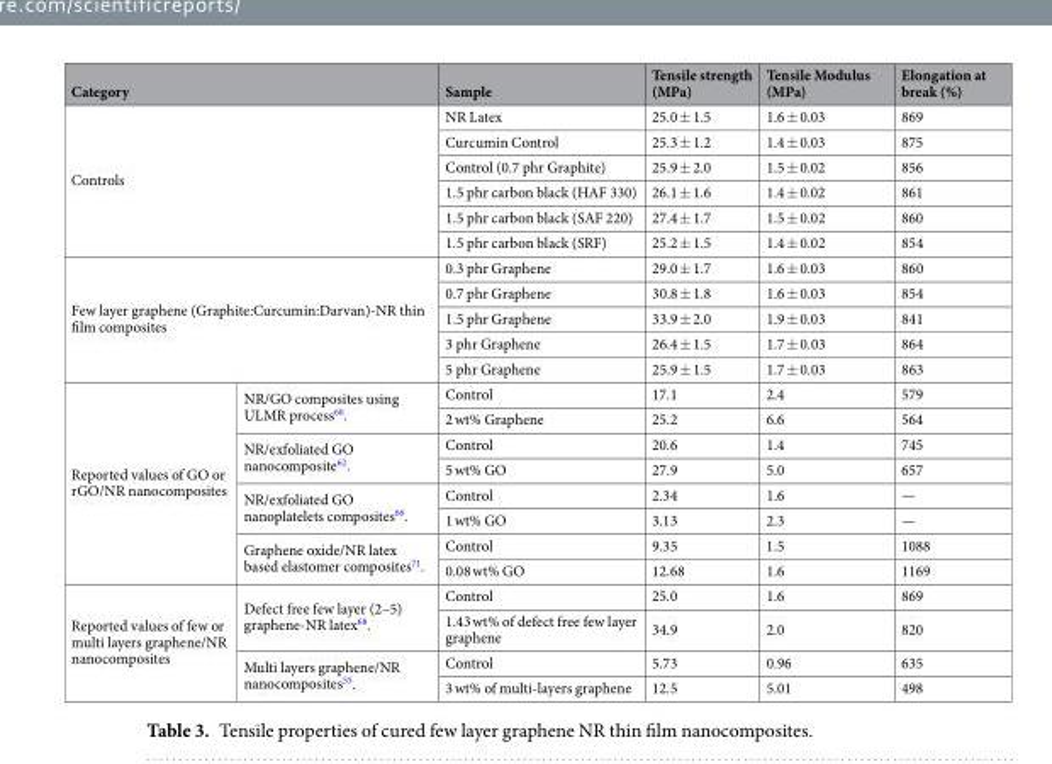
<table><thead><tr><td colspan="2">Category</td><td>Sample</td><td>Tensile strength (MPa)</td><td>Tensile Modulus (MPa)</td><td>Elongation at break (%)</td></tr></thead><tbody><tr><td rowspan="6" colspan="2">Controls</td><td>NR Latex</td><td>25.0 ± 1.5</td><td>1.6 ± 0.03</td><td>869</td></tr><tr><td>Curcumin Control</td><td>25.3 ± 1.2</td><td>1.4 ± 0.03</td><td>875</td></tr><tr><td>Control (0.7 phr Graphite)</td><td>25.9 ± 2.0</td><td>1.5 ± 0.02</td><td>856</td></tr><tr><td>1.5 phr carbon black (HAF 330)</td><td>26.1 ± 1.6</td><td>1.4 ± 0.02</td><td>861</td></tr><tr><td>1.5 phr carbon black (SAF 220)</td><td>27.4 ± 1.7</td><td>1.5 ± 0.02</td><td>860</td></tr><tr><td>1.5 phr carbon black (SRF)</td><td>25.2 ± 1.5</td><td>1.4 ± 0.02</td><td>854</td></tr><tr><td rowspan="5" colspan="2">Few layer graphene (Graphite:Curcumin:Darvan)-NR thin film composites</td><td>0.3 phr Graphene</td><td>29.0 ± 1.7</td><td>1.6 ± 0.03</td><td>860</td></tr><tr><td>0.7 phr Graphene</td><td>30.8 ± 1.8</td><td>1.6 ± 0.03</td><td>854</td></tr><tr><td>1.5 phr Graphene</td><td>33.9 ± 2.0</td><td>1.9 ± 0.03</td><td>841</td></tr><tr><td>3 phr Graphene</td><td>26.4 ± 1.5</td><td>1.7 ± 0.03</td><td>864</td></tr><tr><td>5 phr Graphene</td><td>25.9 ± 1.5</td><td>1.7 ± 0.03</td><td>863</td></tr><tr><td rowspan="8">Reported values of GO or rGO/NR nanocomposites</td><td rowspan="2">NR/GO composites using ULMR process<sup>60</sup>.</td><td>Control</td><td>17.1</td><td>2.4</td><td>579</td></tr><tr><td>2 wt% Graphene</td><td>25.2</td><td>6.6</td><td>564</td></tr><tr><td rowspan="2">NR/exfoliated GO nanocomposite<sup>62</sup>.</td><td>Control</td><td>20.6</td><td>1.4</td><td>745</td></tr><tr><td>5 wt% GO</td><td>27.9</td><td>5.0</td><td>657</td></tr><tr><td rowspan="2">NR/exfoliated GO nanoplatelets composites<sup>66</sup>.</td><td>Control</td><td>2.34</td><td>1.6</td><td>—</td></tr><tr><td>1 wt% GO</td><td>3.13</td><td>2.3</td><td>—</td></tr><tr><td rowspan="2">Graphene oxide/NR latex based elastomer composites<sup>71</sup>.</td><td>Control</td><td>9.35</td><td>1.5</td><td>1088</td></tr><tr><td>0.08 wt% GO</td><td>12.68</td><td>1.6</td><td>1169</td></tr><tr><td rowspan="4">Reported values of few or multi layers graphene/NR nanocomposites</td><td rowspan="2">Defect free few layer (2–5) graphene-NR latex<sup>68</sup>.</td><td>Control</td><td>25.0</td><td>1.6</td><td>869</td></tr><tr><td>1.43 wt% of defect free few layer graphene</td><td>34.9</td><td>2.0</td><td>820</td></tr><tr><td rowspan="2">Multi layers graphene/NR nanocomposites<sup>55</sup>.</td><td>Control</td><td>5.73</td><td>0.96</td><td>635</td></tr><tr><td>3 wt% of multi-layers graphene</td><td>12.5</td><td>5.01</td><td>498</td></tr></tbody></table>